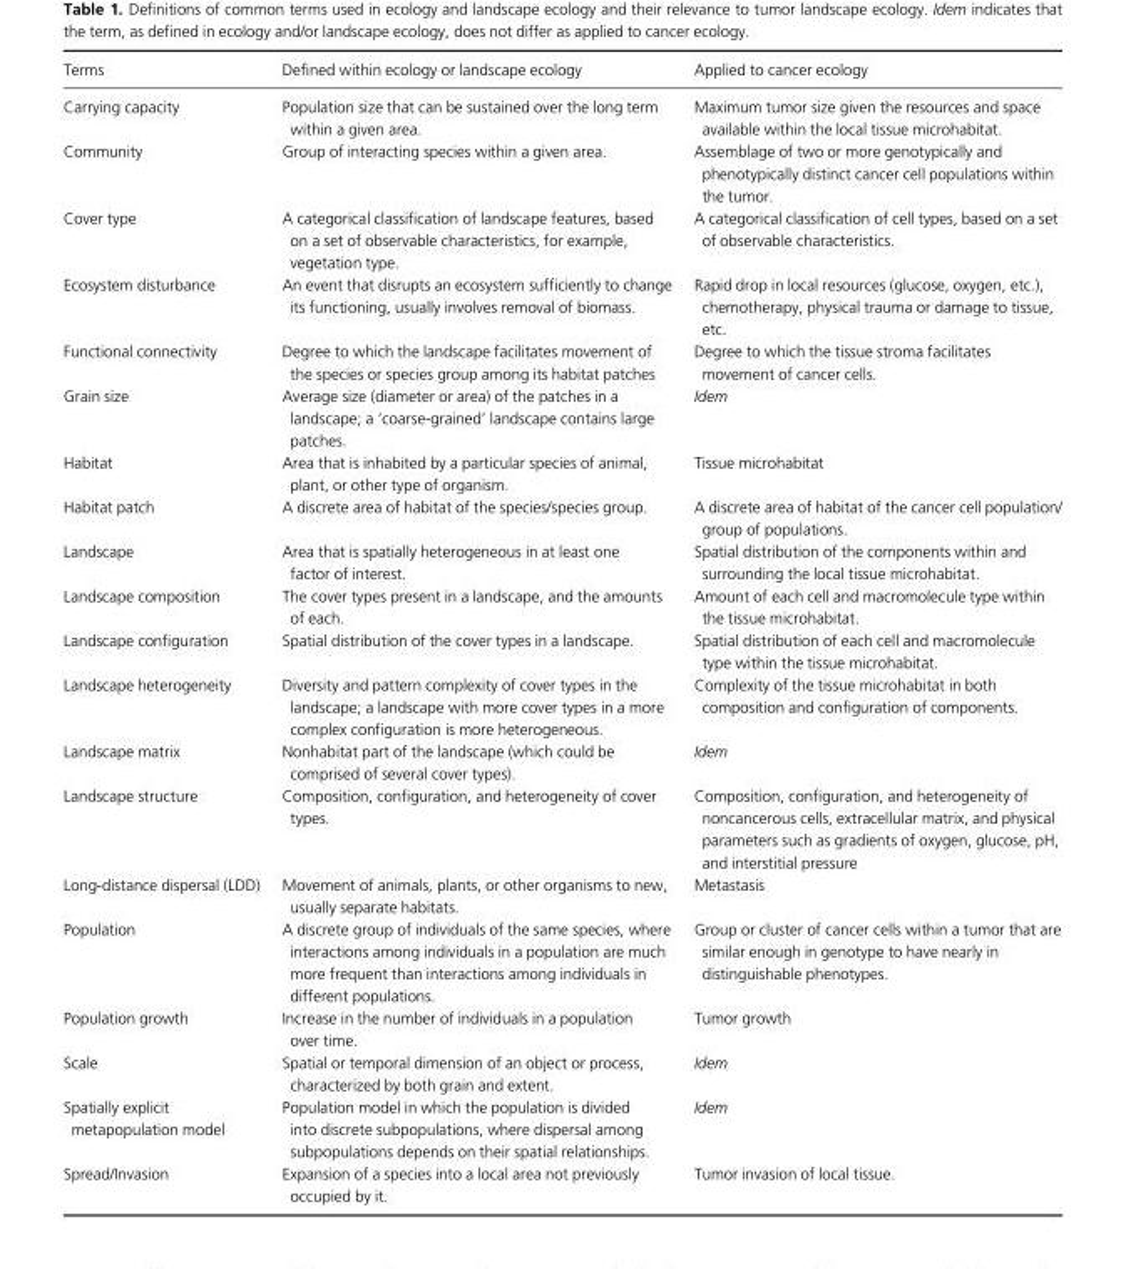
<table><thead><tr><td>Terms</td><td>Defined within ecology or landscape ecology</td><td>Applied to cancer ecology</td></tr></thead><tbody><tr><td>Carrying capacity</td><td>Population size that can be sustained over the long term within a given area.</td><td>Maximum tumor size given the resources and space available within the local tissue microhabitat.</td></tr><tr><td>Community</td><td>Group of interacting species within a given area.</td><td>Assemblage of two or more genotypically and phenotypically distinct cancer cell populations within the tumor.</td></tr><tr><td>Cover type</td><td>A categorical classification of landscape features, based on a set of observable characteristics, for example, vegetation type.</td><td>A categorical classification of cell types, based on a set of observable characteristics.</td></tr><tr><td>Ecosystem disturbance</td><td>An event that disrupts an ecosystem sufficiently to change its functioning, usually involves removal of biomass.</td><td>Rapid drop in local resources (glucose, oxygen, etc.), chemotherapy, physical trauma or damage to tissue, etc.</td></tr><tr><td>Functional connectivity</td><td>Degree to which the landscape facilitates movement of the species or species group among its habitat patches</td><td>Degree to which the tissue stroma facilitates movement of cancer cells.</td></tr><tr><td>Grain size</td><td>Average size (diameter or area) of the patches in a landscape; a ‘coarse-grained’ landscape contains large patches.</td><td>Idem</td></tr><tr><td>Habitat</td><td>Area that is inhabited by a particular species of animal, plant, or other type of organism.</td><td>Tissue microhabitat</td></tr><tr><td>Habitat patch</td><td>A discrete area of habitat of the species/species group.</td><td>A discrete area of habitat of the cancer cell population/ group of populations.</td></tr><tr><td>Landscape</td><td>Area that is spatially heterogeneous in at least one factor of interest.</td><td>Spatial distribution of the components within and surrounding the local tissue microhabitat.</td></tr><tr><td>Landscape composition</td><td>The cover types present in a landscape, and the amounts of each.</td><td>Amount of each cell and macromolecule type within the tissue microhabitat.</td></tr><tr><td>Landscape configuration</td><td>Spatial distribution of the cover types in a landscape.</td><td>Spatial distribution of each cell and macromolecule type within the tissue microhabitat.</td></tr><tr><td>Landscape heterogeneity</td><td>Diversity and pattern complexity of cover types in the landscape; a landscape with more cover types in a more complex configuration is more heterogeneous.</td><td>Complexity of the tissue microhabitat in both composition and configuration of components.</td></tr><tr><td>Landscape matrix</td><td>Nonhabitat part of the landscape (which could be comprised of several cover types).</td><td>Idem</td></tr><tr><td>Landscape structure</td><td>Composition, configuration, and heterogeneity of cover types.</td><td>Composition, configuration, and heterogeneity of noncancerous cells, extracellular matrix, and physical parameters such as gradients of oxygen, glucose, pH, and interstitial pressure</td></tr><tr><td>Long-distance dispersal (LDD)</td><td>Movement of animals, plants, or other organisms to new, usually separate habitats.</td><td>Metastasis</td></tr><tr><td>Population</td><td>A discrete group of individuals of the same species, where interactions among individuals in a population are much more frequent than interactions among individuals in different populations.</td><td>Group or cluster of cancer cells within a tumor that are similar enough in genotype to have nearly in distinguishable phenotypes.</td></tr><tr><td>Population growth</td><td>Increase in the number of individuals in a population over time.</td><td>Tumor growth</td></tr><tr><td>Scale</td><td>Spatial or temporal dimension of an object or process, characterized by both grain and extent.</td><td>Idem</td></tr><tr><td>Spatially explicit metapopulation model</td><td>Population model in which the population is divided into discrete subpopulations, where dispersal among subpopulations depends on their spatial relationships.</td><td>Idem</td></tr><tr><td>Spread/Invasion</td><td>Expansion of a species into a local area not previously occupied by it.</td><td>Tumor invasion of local tissue.</td></tr></tbody></table>